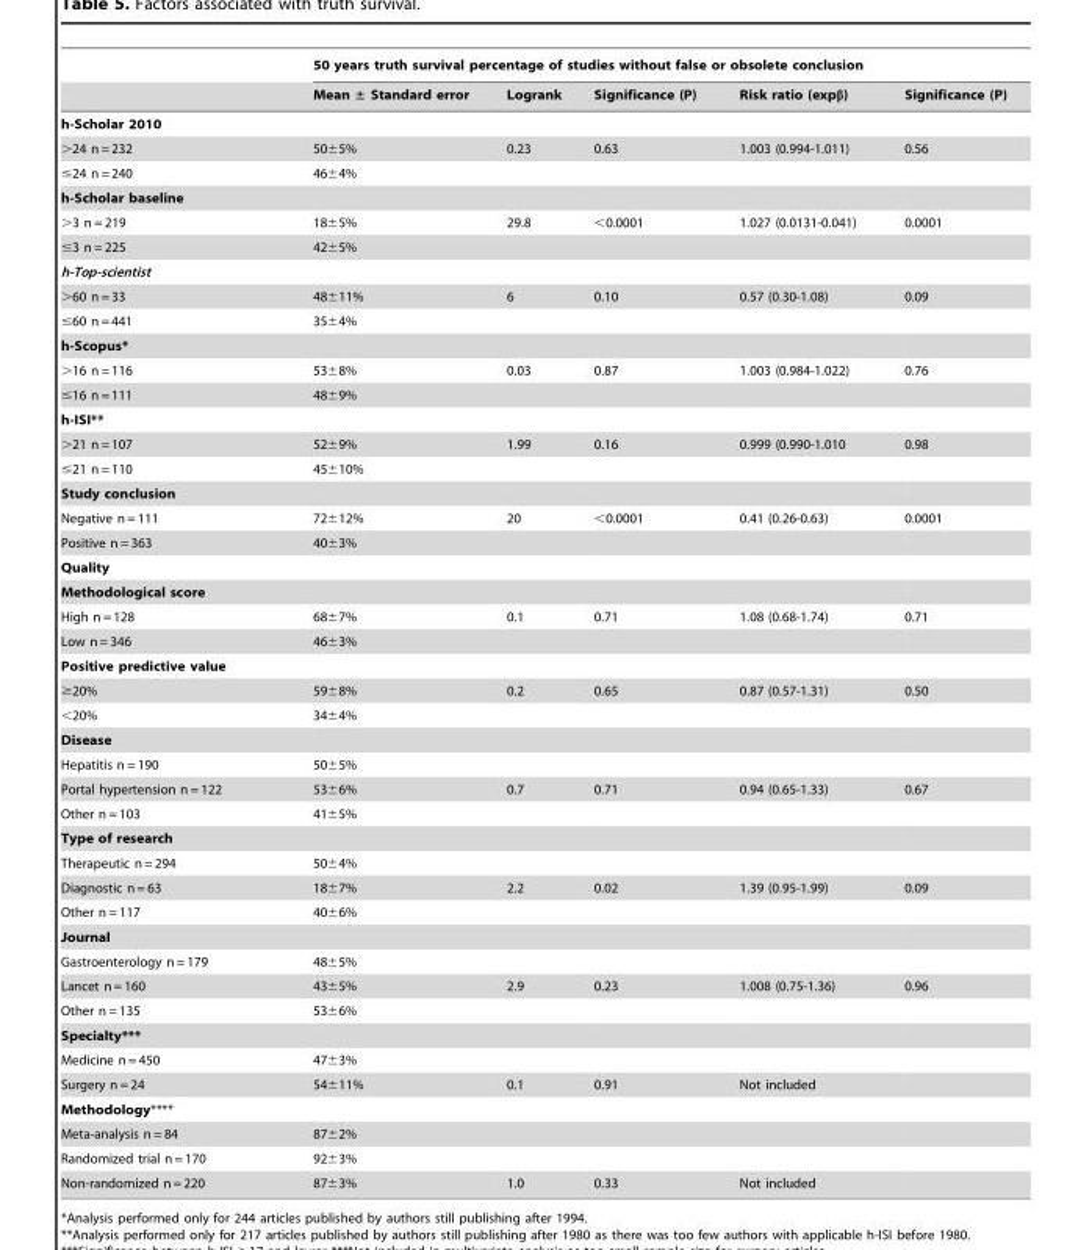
<table><thead><tr><td rowspan="2"></td><td colspan="5">50 years truth survival percentage of studies without false or obsolete conclusion</td></tr><tr><td>Mean ± Standard error</td><td>Logrank</td><td>Significance (P)</td><td>Risk ratio (expβ)</td><td>Significance (P)</td></tr></thead><tbody><tr><td colspan="6">h-Scholar 2010</td></tr><tr><td>&gt;24 n = 232</td><td>50±5%</td><td>0.23</td><td>0.63</td><td>1.003 (0.994-1.011)</td><td>0.56</td></tr><tr><td>≤24 n = 240</td><td>46±4%</td><td></td><td></td><td></td><td></td></tr><tr><td colspan="6">h-Scholar baseline</td></tr><tr><td>&gt;3 n = 219</td><td>18±5%</td><td>29.8</td><td>&lt;0.0001</td><td>1.027 (0.0131-0.041)</td><td>0.0001</td></tr><tr><td>≤3 n = 225</td><td>42±5%</td><td></td><td></td><td></td><td></td></tr><tr><td colspan="6">h-Top-scientist</td></tr><tr><td>&gt;60 n = 33</td><td>48±11%</td><td>6</td><td>0.10</td><td>0.57 (0.30-1.08)</td><td>0.09</td></tr><tr><td>≤60 n = 441</td><td>35±4%</td><td></td><td></td><td></td><td></td></tr><tr><td colspan="6">h-Scopus*</td></tr><tr><td>&gt;16 n = 116</td><td>53±8%</td><td>0.03</td><td>0.87</td><td>1.003 (0.984-1.022)</td><td>0.76</td></tr><tr><td>≤16 n = 111</td><td>48±9%</td><td></td><td></td><td></td><td></td></tr><tr><td colspan="6">h-ISI**</td></tr><tr><td>&gt;21 n = 107</td><td>52±9%</td><td>1.99</td><td>0.16</td><td>0.999 (0.990-1.010</td><td>0.98</td></tr><tr><td>≤21 n = 110</td><td>45±10%</td><td></td><td></td><td></td><td></td></tr><tr><td colspan="6">Study conclusion</td></tr><tr><td>Negative n = 111</td><td>72±12%</td><td>20</td><td>&lt;0.0001</td><td>0.41 (0.26-0.63)</td><td>0.0001</td></tr><tr><td>Positive n = 363</td><td>40±3%</td><td></td><td></td><td></td><td></td></tr><tr><td colspan="6">Quality</td></tr><tr><td colspan="6">Methodological score</td></tr><tr><td>High n = 128</td><td>68±7%</td><td>0.1</td><td>0.71</td><td>1.08 (0.68-1.74)</td><td>0.71</td></tr><tr><td>Low n = 346</td><td>46±3%</td><td></td><td></td><td></td><td></td></tr><tr><td colspan="6">Positive predictive value</td></tr><tr><td>≥20%</td><td>59±8%</td><td>0.2</td><td>0.65</td><td>0.87 (0.57-1.31)</td><td>0.50</td></tr><tr><td>&lt;20%</td><td>34±4%</td><td></td><td></td><td></td><td></td></tr><tr><td colspan="6">Disease</td></tr><tr><td>Hepatitis n = 190</td><td>50±5%</td><td></td><td></td><td></td><td></td></tr><tr><td>Portal hypertension n = 122</td><td>53±6%</td><td>0.7</td><td>0.71</td><td>0.94 (0.65-1.33)</td><td>0.67</td></tr><tr><td>Other n = 103</td><td>41±5%</td><td></td><td></td><td></td><td></td></tr><tr><td colspan="6">Type of research</td></tr><tr><td>Therapeutic n = 294</td><td>50±4%</td><td></td><td></td><td></td><td></td></tr><tr><td>Diagnostic n = 63</td><td>18±7%</td><td>2.2</td><td>0.02</td><td>1.39 (0.95-1.99)</td><td>0.09</td></tr><tr><td>Other n = 117</td><td>40±6%</td><td></td><td></td><td></td><td></td></tr><tr><td colspan="6">Journal</td></tr><tr><td>Gastroenterology n = 179</td><td>48±5%</td><td></td><td></td><td></td><td></td></tr><tr><td>Lancet n = 160</td><td>43±5%</td><td>2.9</td><td>0.23</td><td>1.008 (0.75-1.36)</td><td>0.96</td></tr><tr><td>Other n = 135</td><td>53±6%</td><td></td><td></td><td></td><td></td></tr><tr><td colspan="6">Specialty***</td></tr><tr><td>Medicine n = 450</td><td>47±3%</td><td></td><td></td><td></td><td></td></tr><tr><td>Surgery n = 24</td><td>54±11%</td><td>0.1</td><td>0.91</td><td>Not included</td><td></td></tr><tr><td colspan="6">Methodology****</td></tr><tr><td>Meta-analysis n = 84</td><td>87±2%</td><td></td><td></td><td></td><td></td></tr><tr><td>Randomized trial n = 170</td><td>92±3%</td><td></td><td></td><td></td><td></td></tr><tr><td>Non-randomized n = 220</td><td>87±3%</td><td>1.0</td><td>0.33</td><td>Not included</td><td></td></tr></tbody></table>